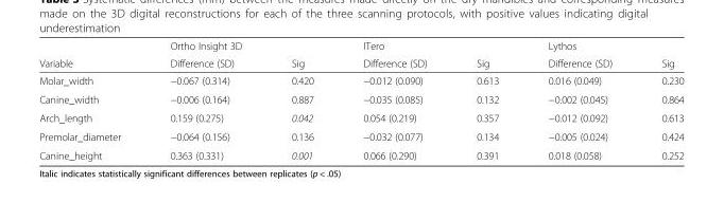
<table><thead><tr><td rowspan="2">Variable</td><td rowspan="2">Ortho Insight 3D Difference (SD)</td><td rowspan="2">Sig</td><td rowspan="2">ITero Difference (SD)</td><td rowspan="2">Sig</td><td rowspan="2">Lythos Difference (SD)</td><td rowspan="2">Sig</td></tr><tr></tr></thead><tbody><tr><td>Molar_width</td><td>−0.067 (0.314)</td><td>0.420</td><td>−0.012 (0.090)</td><td>0.613</td><td>0.016 (0.049)</td><td>0.230</td></tr><tr><td>Canine_width</td><td>−0.006 (0.164)</td><td>0.887</td><td>−0.035 (0.085)</td><td>0.132</td><td>−0.002 (0.045)</td><td>0.864</td></tr><tr><td>Arch_length</td><td>0.159 (0.275)</td><td>0.042</td><td>0.054 (0.219)</td><td>0.357</td><td>−0.012 (0.092)</td><td>0.613</td></tr><tr><td>Premolar_diameter</td><td>−0.064 (0.156)</td><td>0.136</td><td>−0.032 (0.077)</td><td>0.134</td><td>−0.005 (0.024)</td><td>0.424</td></tr><tr><td>Canine_height</td><td>0.363 (0.331)</td><td>0.001</td><td>0.066 (0.290)</td><td>0.391</td><td>0.018 (0.058)</td><td>0.252</td></tr></tbody></table>